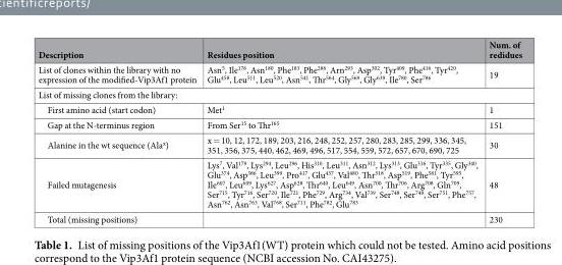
<table><thead><tr><td>Description</td><td>Residues position</td><td>Num. of redidues</td></tr></thead><tbody><tr><td>List of clones within the library with no expression of the modified-Vip3Af1 protein</td><td>Asn<sup>5</sup>, Ile<sup>176</sup>, Asn<sup>180</sup>, Phe<sup>183</sup>, Phe<sup>286</sup>, Arn<sup>293</sup>, Asp<sup>302</sup>, Tyr<sup>409</sup>, Phe<sup>416</sup>, Tyr<sup>420</sup>, Glu<sup>458</sup>, Leu<sup>511</sup>, Leu<sup>520</sup>, Asn<sup>541</sup>, Thr<sup>564</sup>, Gly<sup>569</sup>, Gly<sup>639</sup>, Ile<sup>780</sup>, Ser<sup>786</sup></td><td>19</td></tr><tr><td colspan="3">List of missing clones from the library:</td></tr><tr><td>First amino acid (start codon)</td><td>Met<sup>1</sup></td><td>1</td></tr><tr><td>Gap at the N-terminus region</td><td>From Ser<sup>15</sup> to Thr<sup>165</sup></td><td>151</td></tr><tr><td>Alanine in the wt sequence (Ala<sup>x</sup>)</td><td>x = 10, 12, 172, 189, 203, 216, 248, 252, 257, 280, 283, 285, 299, 336, 345, 351, 356, 375, 440, 462, 469, 496, 517, 554, 559, 572, 657, 670, 690, 725</td><td>30</td></tr><tr><td>Failed mutagenesis</td><td>Lys7, Val179, Lys294, Leu296, His310, Leu311, Asn312, Lys313, Glu316, Tyr335, Gly340, Glu374, Asp386, Leu399, Pro417, Glu437, Val480, Thr518, Asp519, Phe581, Tyr595, Ile607, Leu609, Lys627, Asp628, Thr640, Leu649, Asn700, Thr706, Arg708, Gln709, Ser715, Tyr716, Ser720, Ile721, Phe729, Arg734, Val739, Ser748, Ser749, Ser751, Phe757, Asn762, Asn763, Val768, Ser711, Phe782, Glu783</td><td>48</td></tr><tr><td>Total (missing positions)</td><td></td><td>230</td></tr></tbody></table>